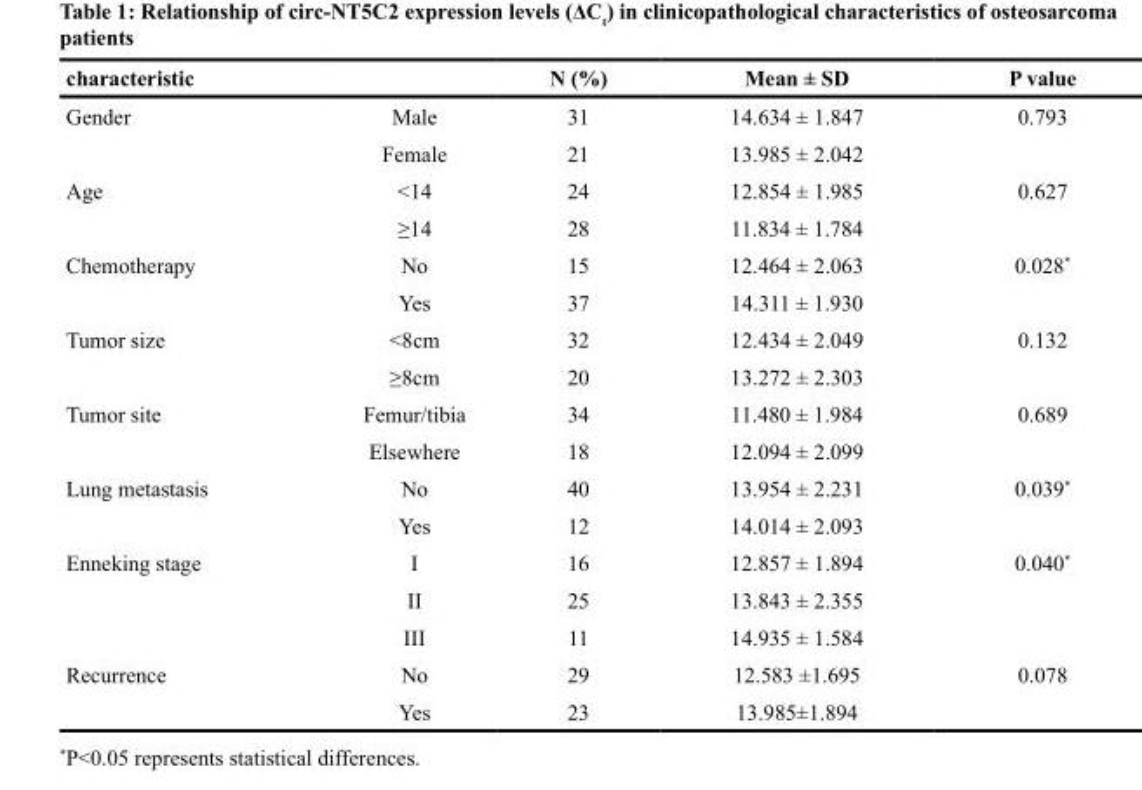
<table><thead><tr><td>characteristic</td><td></td><td>N (%)</td><td>Mean ± SD</td><td>P value</td></tr></thead><tbody><tr><td rowspan="2">Gender</td><td>Male</td><td>31</td><td>14.634 ± 1.847</td><td>0.793</td></tr><tr><td>Female</td><td>21</td><td>13.985 ± 2.042</td><td></td></tr><tr><td rowspan="2">Age</td><td>&lt;14</td><td>24</td><td>12.854 ± 1.985</td><td>0.627</td></tr><tr><td>≥14</td><td>28</td><td>11.834 ± 1.784</td><td></td></tr><tr><td rowspan="2">Chemotherapy</td><td>No</td><td>15</td><td>12.464 ± 2.063</td><td>0.028*</td></tr><tr><td>Yes</td><td>37</td><td>14.311 ± 1.930</td><td></td></tr><tr><td rowspan="2">Tumor size</td><td>&lt;8cm</td><td>32</td><td>12.434 ± 2.049</td><td>0.132</td></tr><tr><td>≥8cm</td><td>20</td><td>13.272 ± 2.303</td><td></td></tr><tr><td rowspan="2">Tumor site</td><td>Femur/tibia</td><td>34</td><td>11.480 ± 1.984</td><td>0.689</td></tr><tr><td>Elsewhere</td><td>18</td><td>12.094 ± 2.099</td><td></td></tr><tr><td rowspan="2">Lung metastasis</td><td>No</td><td>40</td><td>13.954 ± 2.231</td><td>0.039*</td></tr><tr><td>Yes</td><td>12</td><td>14.014 ± 2.093</td><td></td></tr><tr><td rowspan="3">Enneking stage</td><td>I</td><td>16</td><td>12.857 ± 1.894</td><td>0.040*</td></tr><tr><td>II</td><td>25</td><td>13.843 ± 2.355</td><td></td></tr><tr><td>III</td><td>11</td><td>14.935 ± 1.584</td><td></td></tr><tr><td rowspan="2">Recurrence</td><td>No</td><td>29</td><td>12.583 ±1.695</td><td>0.078</td></tr><tr><td>Yes</td><td>23</td><td>13.985±1.894</td><td></td></tr></tbody></table>